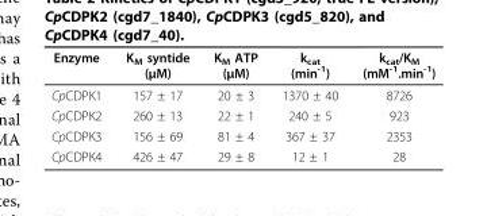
<table><thead><tr><td>Enzyme</td><td>K<sub>M</sub> syntide (μM)</td><td>K<sub>M</sub> ATP (μM)</td><td>k<sub>cat</sub> (min<sup>-1</sup>)</td><td>k<sub>cat</sub>/K<sub>M</sub> (mM<sup>-1</sup>.min<sup>-1</sup>)</td></tr></thead><tbody><tr><td>CpCDPK1</td><td>157 ± 17</td><td>20 ± 3</td><td>1370 ± 40</td><td>8726</td></tr><tr><td>CpCDPK2</td><td>260 ± 13</td><td>22 ± 1</td><td>240 ± 5</td><td>923</td></tr><tr><td>CpCDPK3</td><td>156 ± 69</td><td>81 ± 4</td><td>367 ± 37</td><td>2353</td></tr><tr><td>CpCDPK4</td><td>426 ± 47</td><td>29 ± 8</td><td>12 ± 1</td><td>28</td></tr></tbody></table>